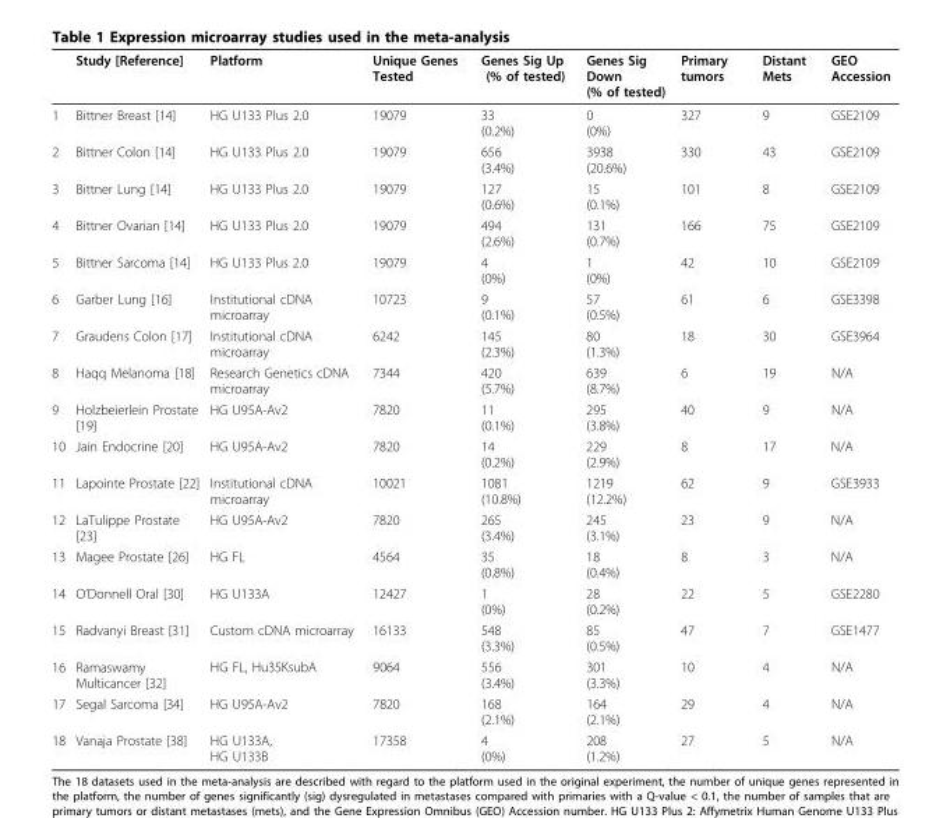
<table><thead><tr><td></td><td>Study [Reference]</td><td>Platform</td><td>Unique Genes Tested</td><td>Genes Sig Up (% of tested)</td><td>Genes Sig Down (% of tested)</td><td>Primary tumors</td><td>Distant Mets</td><td>GEO Accession</td></tr></thead><tbody><tr><td>1</td><td>Bittner Breast [14]</td><td>HG U133 Plus 2.0</td><td>19079</td><td>33 (0.2%)</td><td>0 (0%)</td><td>327</td><td>9</td><td>GSE2109</td></tr><tr><td>2</td><td>Bittner Colon [14]</td><td>HG U133 Plus 2.0</td><td>19079</td><td>656 (3.4%)</td><td>3938 (20.6%)</td><td>330</td><td>43</td><td>GSE2109</td></tr><tr><td>3</td><td>Bittner Lung [14]</td><td>HG U133 Plus 2.0</td><td>19079</td><td>127 (0.6%)</td><td>15 (0.1%)</td><td>101</td><td>8</td><td>GSE2109</td></tr><tr><td>4</td><td>Bittner Ovarian [14]</td><td>HG U133 Plus 2.0</td><td>19079</td><td>494 (2.6%)</td><td>131 (0.7%)</td><td>166</td><td>75</td><td>GSE2109</td></tr><tr><td>5</td><td>Bittner Sarcoma [14]</td><td>HG U133 Plus 2.0</td><td>19079</td><td>4 (0%)</td><td>1 (0%)</td><td>42</td><td>10</td><td>GSE2109</td></tr><tr><td>6</td><td>Garber Lung [16]</td><td>Institutional cDNA microarray</td><td>10723</td><td>9 (0.1%)</td><td>57 (0.5%)</td><td>61</td><td>6</td><td>GSE3398</td></tr><tr><td>7</td><td>Graudens Colon [17]</td><td>Institutional cDNA microarray</td><td>6242</td><td>145 (2.3%)</td><td>80 (1.3%)</td><td>18</td><td>30</td><td>GSE3964</td></tr><tr><td>8</td><td>Haqq Melanoma [18]</td><td>Research Genetics cDNA microarray</td><td>7344</td><td>420 (5.7%)</td><td>639 (8.7%)</td><td>6</td><td>19</td><td>N/A</td></tr><tr><td>9</td><td>Holzbeierlein Prostate [19]</td><td>HG U95A-Av2</td><td>7820</td><td>11 (0.1%)</td><td>295 (3.8%)</td><td>40</td><td>9</td><td>N/A</td></tr><tr><td>10</td><td>Jain Endocrine [20]</td><td>HG U95A-Av2</td><td>7820</td><td>14 (0.2%)</td><td>229 (2.9%)</td><td>8</td><td>17</td><td>N/A</td></tr><tr><td>11</td><td>Lapointe Prostate [22]</td><td>Institutional cDNA microarray</td><td>10021</td><td>1081 (10.8%)</td><td>1219 (12.2%)</td><td>62</td><td>9</td><td>GSE3933</td></tr><tr><td>12</td><td>LaTulippe Prostate [23]</td><td>HG U95A-Av2</td><td>7820</td><td>265 (3.4%)</td><td>245 (3.1%)</td><td>23</td><td>9</td><td>N/A</td></tr><tr><td>13</td><td>Magee Prostate [26]</td><td>HG FL</td><td>4564</td><td>35 (0.8%)</td><td>18 (0.4%)</td><td>8</td><td>3</td><td>N/A</td></tr><tr><td>14</td><td>O’Donnell Oral [30]</td><td>HG U133A</td><td>12427</td><td>1 (0%)</td><td>28 (0.2%)</td><td>22</td><td>5</td><td>GSE2280</td></tr><tr><td>15</td><td>Radvanyi Breast [31]</td><td>Custom cDNA microarray</td><td>16133</td><td>548 (3.3%)</td><td>85 (0.5%)</td><td>47</td><td>7</td><td>GSE1477</td></tr><tr><td>16</td><td>Ramaswamy Multicancer [32]</td><td>HG FL, Hu35KsubA</td><td>9064</td><td>556 (3.4%)</td><td>301 (3.3%)</td><td>10</td><td>4</td><td>N/A</td></tr><tr><td>17</td><td>Segal Sarcoma [34]</td><td>HG U95A-Av2</td><td>7820</td><td>168 (2.1%)</td><td>164 (2.1%)</td><td>29</td><td>4</td><td>N/A</td></tr><tr><td>18</td><td>Vanaja Prostate [38]</td><td>HG U133A, HG U133B</td><td>17358</td><td>4 (0%)</td><td>208 (1.2%)</td><td>27</td><td>5</td><td>N/A</td></tr></tbody></table>